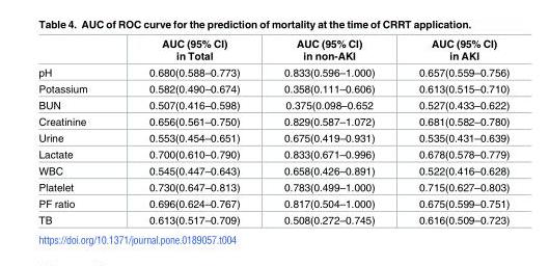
<table><thead><tr><td></td><td>AUC (95% CI) in Total</td><td>AUC (95% CI) in non-AKI</td><td>AUC (95% CI) in AKI</td></tr></thead><tbody><tr><td>pH</td><td>0.680(0.588–0.773)</td><td>0.833(0.596–1.000)</td><td>0.657(0.559–0.756)</td></tr><tr><td>Potassium</td><td>0.582(0.490–0.674)</td><td>0.358(0.111–0.606)</td><td>0.613(0.515–0.710)</td></tr><tr><td>BUN</td><td>0.507(0.416–0.598)</td><td>0.375(0.098–0.652</td><td>0.527(0.433–0.622)</td></tr><tr><td>Creatinine</td><td>0.656(0.561–0.750)</td><td>0.829(0.587–1.072)</td><td>0.681(0.582–0.780)</td></tr><tr><td>Urine</td><td>0.553(0.454–0.651)</td><td>0.675(0.419–0.931)</td><td>0.535(0.431–0.639)</td></tr><tr><td>Lactate</td><td>0.700(0.610–0.790)</td><td>0.833(0.671–0.996)</td><td>0.678(0.578–0.779)</td></tr><tr><td>WBC</td><td>0.545(0.447–0.643)</td><td>0.658(0.426–0.891)</td><td>0.522(0.416–0.628)</td></tr><tr><td>Platelet</td><td>0.730(0.647–0.813)</td><td>0.783(0.499–1.000)</td><td>0.715(0.627–0.803)</td></tr><tr><td>PF ratio</td><td>0.696(0.624–0.767)</td><td>0.817(0.504–1.000)</td><td>0.675(0.599–0.751)</td></tr><tr><td>TB</td><td>0.613(0.517–0.709)</td><td>0.508(0.272–0.745)</td><td>0.616(0.509–0.723)</td></tr></tbody></table>